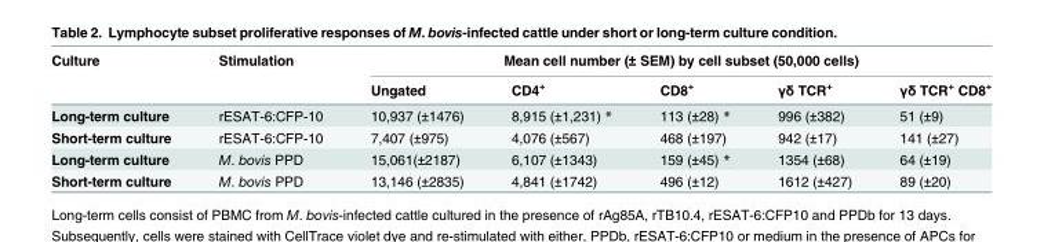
<table><thead><tr><td rowspan="2">Culture</td><td rowspan="2">Stimulation</td><td colspan="5">Mean cell number (± SEM) by cell subset (50,000 cells)</td></tr><tr><td>Ungated</td><td>CD4<sup>+</sup></td><td>CD8<sup>+</sup></td><td>γδ TCR<sup>+</sup></td><td>γδ TCR<sup>+</sup> CD8<sup>+</sup></td></tr></thead><tbody><tr><td>Long-term culture</td><td>rESAT-6:CFP-10</td><td>10,937 (±1476)</td><td>8,915 (±1,231) *</td><td>113 (±28) *</td><td>996 (±382)</td><td>51 (±9)</td></tr><tr><td>Short-term culture</td><td>rESAT-6:CFP-10</td><td>7,407 (±975)</td><td>4,076 (±567)</td><td>468 (±197)</td><td>942 (±17)</td><td>141 (±27)</td></tr><tr><td>Long-term culture</td><td>M. bovis PPD</td><td>15,061(±2187)</td><td>6,107 (±1343)</td><td>159 (±45) *</td><td>1354 (±68)</td><td>64 (±19)</td></tr><tr><td>Short-term culture</td><td>M. bovis PPD</td><td>13,146 (±2835)</td><td>4,841 (±1742)</td><td>496 (±12)</td><td>1612 (±427)</td><td>89 (±20)</td></tr></tbody></table>